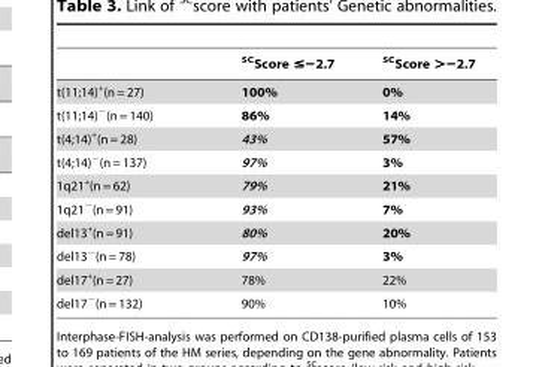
<table><thead><tr><td></td><td><sup>SC</sup>Score ≤−2.7</td><td><sup>SC</sup>Score &gt;−2.7</td></tr></thead><tbody><tr><td>t(11;14)<sup>+</sup>(n = 27)</td><td>100%</td><td>0%</td></tr><tr><td>t(11;14)<sup>−</sup>(n = 140)</td><td>86%</td><td>14%</td></tr><tr><td>t(4;14)<sup>+</sup>(n = 28)</td><td>43%</td><td>57%</td></tr><tr><td>t(4;14)<sup>−</sup>(n = 137)</td><td>97%</td><td>3%</td></tr><tr><td>1q21<sup>+</sup>(n = 62)</td><td>79%</td><td>21%</td></tr><tr><td>1q21<sup>−</sup>(n = 91)</td><td>93%</td><td>7%</td></tr><tr><td>del13<sup>+</sup>(n = 91)</td><td>80%</td><td>20%</td></tr><tr><td>del13<sup>−</sup>(n = 78)</td><td>97%</td><td>3%</td></tr><tr><td>del17<sup>+</sup>(n = 27)</td><td>78%</td><td>22%</td></tr><tr><td>del17<sup>−</sup>(n = 132)</td><td>90%</td><td>10%</td></tr></tbody></table>